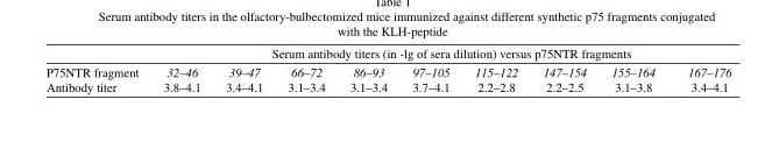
<table><thead><tr><td rowspan="2">P75NTR fragment</td><td colspan="9">Serum antibody titers (in -lg of sera dilution) versus p75NTR fragments</td></tr><tr><td>32–46</td><td>39–47</td><td>66–72</td><td>86–93</td><td>97–105</td><td>115–122</td><td>147–154</td><td>155–164</td><td>167–176</td></tr></thead><tbody><tr><td>Antibody titer</td><td>3.8–4.1</td><td>3.4–4.1</td><td>3.1–3.4</td><td>3.1–3.4</td><td>3.7–4.1</td><td>2.2–2.8</td><td>2.2–2.5</td><td>3.1–3.8</td><td>3.4–4.1</td></tr></tbody></table>